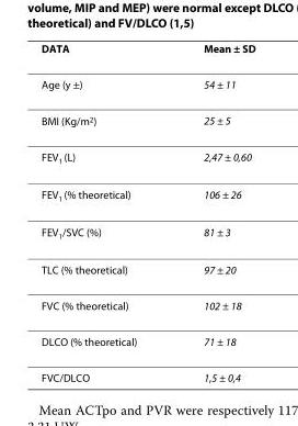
<table><thead><tr><td>DATA</td><td>Mean ± SD</td></tr></thead><tbody><tr><td>Age (y ±)</td><td>54 ± 11</td></tr><tr><td>BMI (Kg/m<sup>2</sup>)</td><td>25 ± 5</td></tr><tr><td>FEV<sub>1</sub> (L)</td><td>2,47 ± 0,60</td></tr><tr><td>FEV<sub>1</sub> (% theoretical)</td><td>106 ± 26</td></tr><tr><td>FEV<sub>1</sub>/SVC (%)</td><td>81 ± 3</td></tr><tr><td>TLC (% theoretical)</td><td>97 ± 20</td></tr><tr><td>FVC (% theoretical)</td><td>102 ± 18</td></tr><tr><td>DLCO (% theoretical)</td><td>71 ± 18</td></tr><tr><td>FVC/DLCO</td><td>1,5 ± 0,4</td></tr></tbody></table>